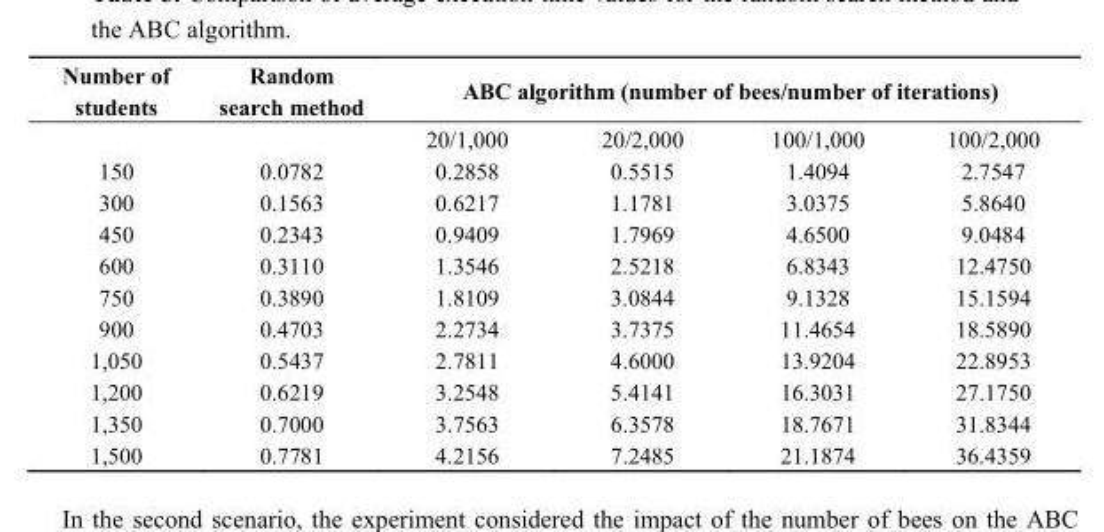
<table><thead><tr><td rowspan="2">Number of students</td><td rowspan="2">Random search method</td><td colspan="4">ABC algorithm (number of bees/number of iterations)</td></tr><tr><td>20/1,000</td><td>20/2,000</td><td>100/1,000</td><td>100/2,000</td></tr></thead><tbody><tr><td>150</td><td>0.0782</td><td>0.2858</td><td>0.5515</td><td>1.4094</td><td>2.7547</td></tr><tr><td>300</td><td>0.1563</td><td>0.6217</td><td>1.1781</td><td>3.0375</td><td>5.8640</td></tr><tr><td>450</td><td>0.2343</td><td>0.9409</td><td>1.7969</td><td>4.6500</td><td>9.0484</td></tr><tr><td>600</td><td>0.3110</td><td>1.3546</td><td>2.5218</td><td>6.8343</td><td>12.4750</td></tr><tr><td>750</td><td>0.3890</td><td>1.8109</td><td>3.0844</td><td>9.1328</td><td>15.1594</td></tr><tr><td>900</td><td>0.4703</td><td>2.2734</td><td>3.7375</td><td>11.4654</td><td>18.5890</td></tr><tr><td>1,050</td><td>0.5437</td><td>2.7811</td><td>4.6000</td><td>13.9204</td><td>22.8953</td></tr><tr><td>1,200</td><td>0.6219</td><td>3.2548</td><td>5.4141</td><td>16.3031</td><td>27.1750</td></tr><tr><td>1,350</td><td>0.7000</td><td>3.7563</td><td>6.3578</td><td>18.7671</td><td>31.8344</td></tr><tr><td>1,500</td><td>0.7781</td><td>4.2156</td><td>7.2485</td><td>21.1874</td><td>36.4359</td></tr></tbody></table>